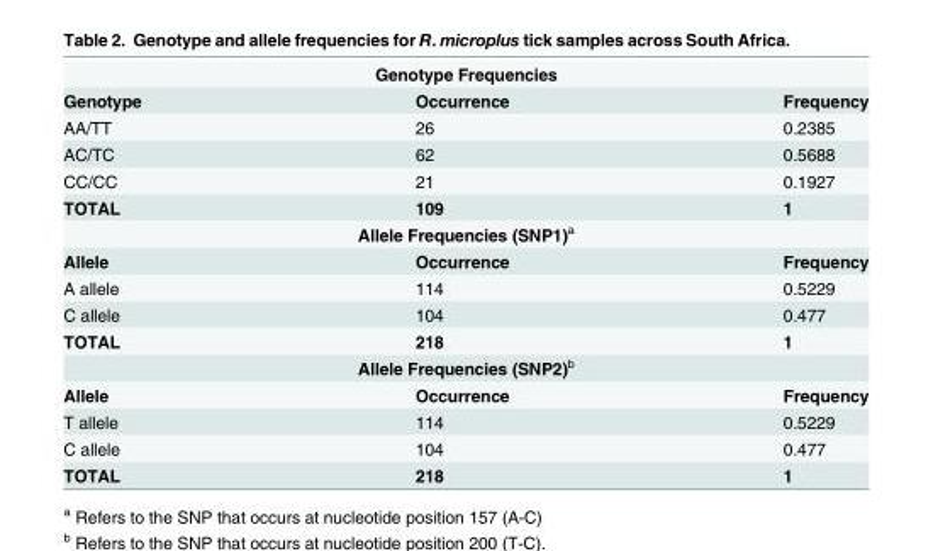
<table><tbody><tr><td colspan="3">Genotype Frequencies</td></tr><tr><td>Genotype</td><td>Occurrence</td><td>Frequency</td></tr><tr><td>AA/TT</td><td>26</td><td>0.2385</td></tr><tr><td>AC/TC</td><td>62</td><td>0.5688</td></tr><tr><td>CC/CC</td><td>21</td><td>0.1927</td></tr><tr><td>TOTAL</td><td>109</td><td>1</td></tr><tr><td colspan="3">Allele Frequencies (SNP1)<sup>a</sup></td></tr><tr><td>Allele</td><td>Occurrence</td><td>Frequency</td></tr><tr><td>A allele</td><td>114</td><td>0.5229</td></tr><tr><td>C allele</td><td>104</td><td>0.477</td></tr><tr><td>TOTAL</td><td>218</td><td>1</td></tr><tr><td colspan="3">Allele Frequencies (SNP2)<sup>b</sup></td></tr><tr><td>Allele</td><td>Occurrence</td><td>Frequency</td></tr><tr><td>T allele</td><td>114</td><td>0.5229</td></tr><tr><td>C allele</td><td>104</td><td>0.477</td></tr><tr><td>TOTAL</td><td>218</td><td>1</td></tr></tbody></table>